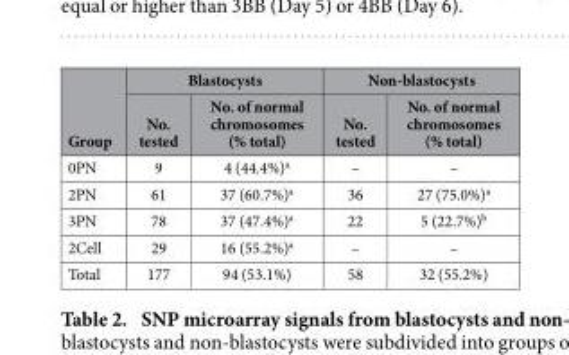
<table><thead><tr><td rowspan="2">Group</td><td colspan="2">Blastocysts</td><td colspan="2">Non-blastocysts</td></tr><tr><td>No. tested</td><td>No. of normal chromosomes (% total)</td><td>No. tested</td><td>No. of normal chromosomes (% total)</td></tr></thead><tbody><tr><td>0PN</td><td>9</td><td>4 (44.4%)<sup>a</sup></td><td>–</td><td>–</td></tr><tr><td>2PN</td><td>61</td><td>37 (60.7%)<sup>a</sup></td><td>36</td><td>27 (75.0%)<sup>a</sup></td></tr><tr><td>3PN</td><td>78</td><td>37 (47.4%)<sup>a</sup></td><td>22</td><td>5 (22.7%)<sup>b</sup></td></tr><tr><td>2Cell</td><td>29</td><td>16 (55.2%)<sup>a</sup></td><td>–</td><td>–</td></tr><tr><td>Total</td><td>177</td><td>94 (53.1%)</td><td>58</td><td>32 (55.2%)</td></tr></tbody></table>